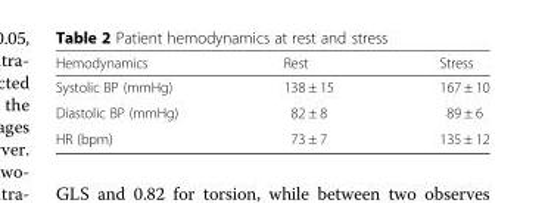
<table><thead><tr><td>Hemodynamics</td><td>Rest</td><td>Stress</td></tr></thead><tbody><tr><td>Systolic BP (mmHg)</td><td>138 ± 15</td><td>167 ± 10</td></tr><tr><td>Diastolic BP (mmHg)</td><td>82 ± 8</td><td>89 ± 6</td></tr><tr><td>HR (bpm)</td><td>73 ± 7</td><td>135 ± 12</td></tr></tbody></table>